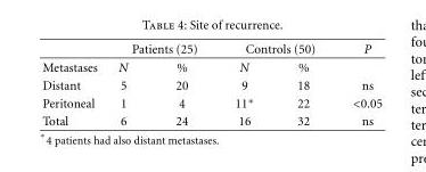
<table><thead><tr><td rowspan="2">Metastases</td><td colspan="2">Patients (25)</td><td colspan="2">Controls (50)</td><td rowspan="2">P</td></tr><tr><td>N</td><td>%</td><td>N</td><td>%</td></tr></thead><tbody><tr><td>Distant</td><td>5</td><td>20</td><td>9</td><td>18</td><td>ns</td></tr><tr><td>Peritoneal</td><td>1</td><td>4</td><td>11∗</td><td>22</td><td>&lt;0.05</td></tr><tr><td>Total</td><td>6</td><td>24</td><td>16</td><td>32</td><td>ns</td></tr></tbody></table>